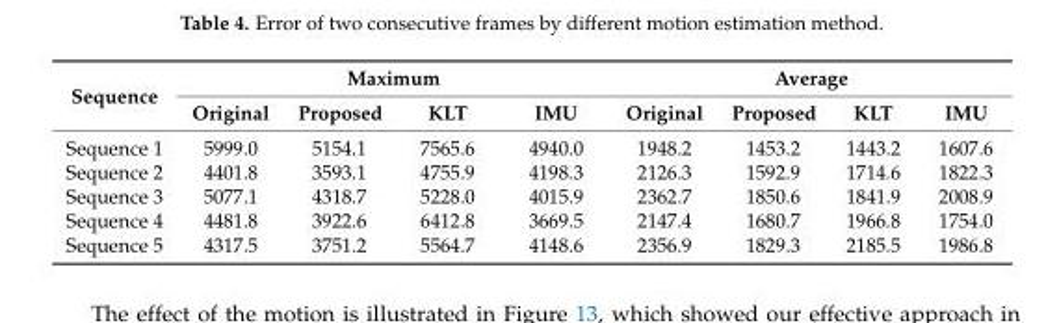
<table><thead><tr><td rowspan="2">Sequence</td><td colspan="4">Maximum</td><td colspan="4">Average</td></tr><tr><td>Original</td><td>Proposed</td><td>KLT</td><td>IMU</td><td>Original</td><td>Proposed</td><td>KLT</td><td>IMU</td></tr></thead><tbody><tr><td>Sequence 1</td><td>5999.0</td><td>5154.1</td><td>7565.6</td><td>4940.0</td><td>1948.2</td><td>1453.2</td><td>1443.2</td><td>1607.6</td></tr><tr><td>Sequence 2</td><td>4401.8</td><td>3593.1</td><td>4755.9</td><td>4198.3</td><td>2126.3</td><td>1592.9</td><td>1714.6</td><td>1822.3</td></tr><tr><td>Sequence 3</td><td>5077.1</td><td>4318.7</td><td>5228.0</td><td>4015.9</td><td>2362.7</td><td>1850.6</td><td>1841.9</td><td>2008.9</td></tr><tr><td>Sequence 4</td><td>4481.8</td><td>3922.6</td><td>6412.8</td><td>3669.5</td><td>2147.4</td><td>1680.7</td><td>1966.8</td><td>1754.0</td></tr><tr><td>Sequence 5</td><td>4317.5</td><td>3751.2</td><td>5564.7</td><td>4148.6</td><td>2356.9</td><td>1829.3</td><td>2185.5</td><td>1986.8</td></tr></tbody></table>